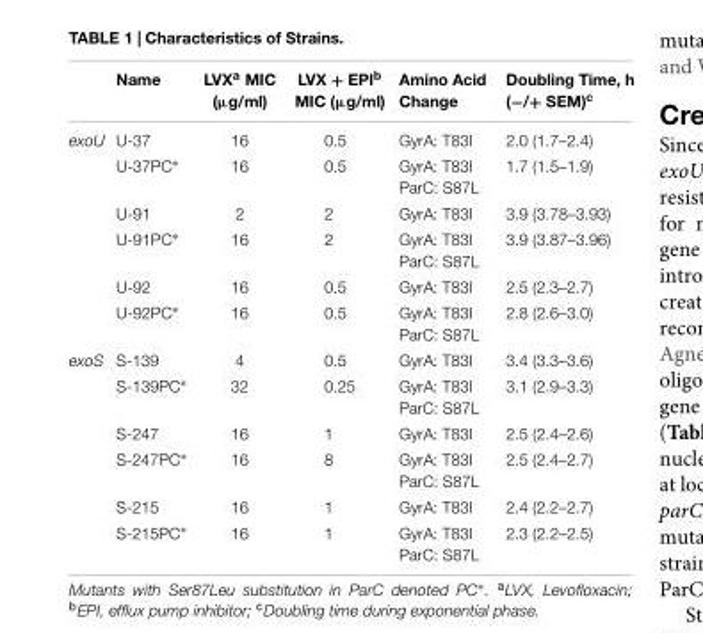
<table><thead><tr><td></td><td>Name</td><td>LVX<sup>a</sup> MIC (µg/ml)</td><td>LVX + EPI<sup>b</sup> MIC (µg/ml)</td><td>Amino Acid Change</td><td>Doubling Time, h (−/+ SEM)<sup>c</sup></td></tr></thead><tbody><tr><td rowspan="6">exoU</td><td>U-37</td><td>16</td><td>0.5</td><td>GyrA: T83I</td><td>2.0 (1.7–2.4)</td></tr><tr><td>U-37PC∗</td><td>16</td><td>0.5</td><td>GyrA: T83I ParC: S87L</td><td>1.7 (1.5–1.9)</td></tr><tr><td>U-91</td><td>2</td><td>2</td><td>GyrA: T83I</td><td>3.9 (3.78–3.93)</td></tr><tr><td>U-91PC∗</td><td>16</td><td>2</td><td>GyrA: T83I ParC: S87L</td><td>3.9 (3.87–3.96)</td></tr><tr><td>U-92</td><td>16</td><td>0.5</td><td>GyrA: T83I</td><td>2.5 (2.3–2.7)</td></tr><tr><td>U-92PC∗</td><td>16</td><td>0.5</td><td>GyrA: T83I ParC: S87L</td><td>2.8 (2.6–3.0)</td></tr><tr><td rowspan="6">exoS</td><td>S-139</td><td>4</td><td>0.5</td><td>GyrA: T83I</td><td>3.4 (3.3–3.6)</td></tr><tr><td>S-139PC∗</td><td>32</td><td>0.25</td><td>GyrA: T83I ParC: S87L</td><td>3.1 (2.9–3.3)</td></tr><tr><td>S-247</td><td>16</td><td>1</td><td>GyrA: T83I</td><td>2.5 (2.4–2.6)</td></tr><tr><td>S-247PC∗</td><td>16</td><td>8</td><td>GyrA: T83I ParC: S87L</td><td>2.5 (2.4–2.7)</td></tr><tr><td>S-215</td><td>16</td><td>1</td><td>GyrA: T83I</td><td>2.4 (2.2–2.7)</td></tr><tr><td>S-215PC∗</td><td>16</td><td>1</td><td>GyrA: T83I ParC: S87L</td><td>2.3 (2.2–2.5)</td></tr></tbody></table>